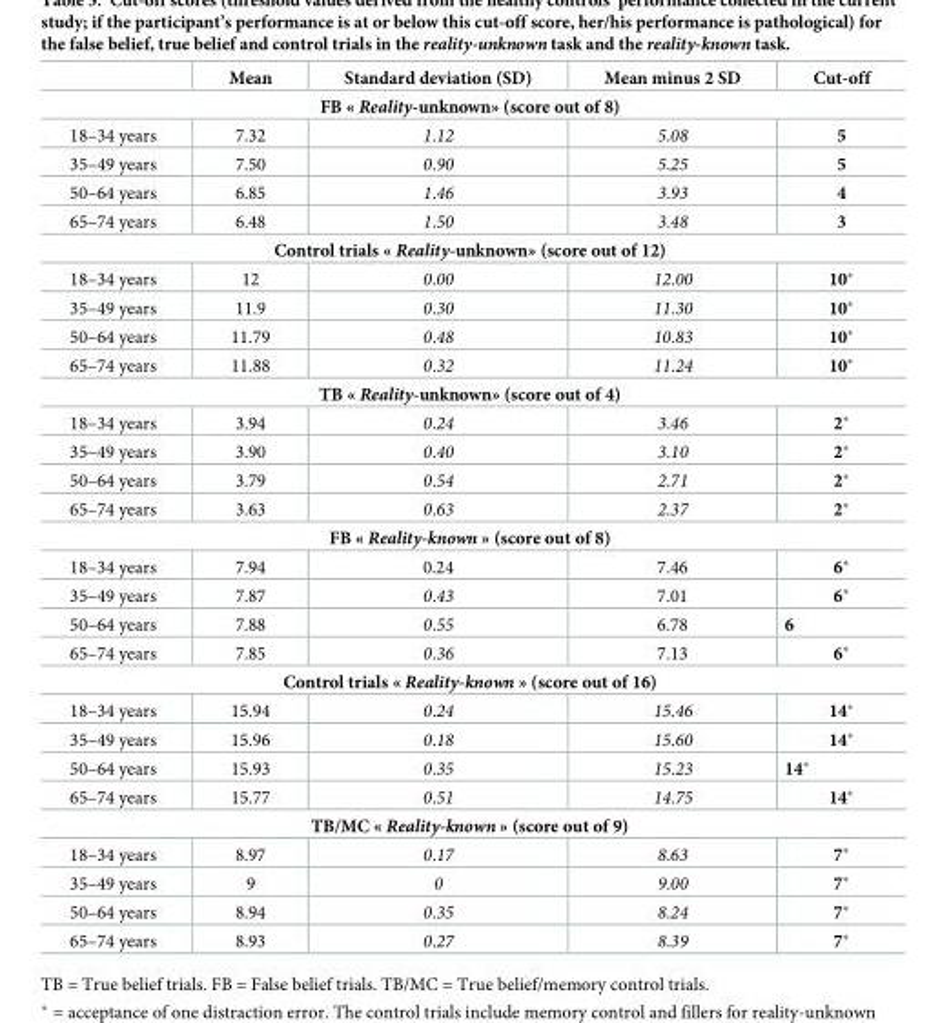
<table><thead><tr><td></td><td>Mean</td><td>Standard deviation (SD)</td><td>Mean minus 2 SD</td><td>Cut-off</td></tr></thead><tbody><tr><td colspan="5">FB « Reality-unknown» (score out of 8)</td></tr><tr><td>18–34 years</td><td>7.32</td><td>1.12</td><td>5.08</td><td>5</td></tr><tr><td>35–49 years</td><td>7.50</td><td>0.90</td><td>5.25</td><td>5</td></tr><tr><td>50–64 years</td><td>6.85</td><td>1.46</td><td>3.93</td><td>4</td></tr><tr><td>65–74 years</td><td>6.48</td><td>1.50</td><td>3.48</td><td>3</td></tr><tr><td colspan="5">Control trials « Reality-unknown» (score out of 12)</td></tr><tr><td>18–34 years</td><td>12</td><td>0.00</td><td>12.00</td><td>10*</td></tr><tr><td>35–49 years</td><td>11.9</td><td>0.30</td><td>11.30</td><td>10*</td></tr><tr><td>50–64 years</td><td>11.79</td><td>0.48</td><td>10.83</td><td>10*</td></tr><tr><td>65–74 years</td><td>11.88</td><td>0.32</td><td>11.24</td><td>10*</td></tr><tr><td colspan="5">TB « Reality-unknown» (score out of 4)</td></tr><tr><td>18–34 years</td><td>3.94</td><td>0.24</td><td>3.46</td><td>2*</td></tr><tr><td>35–49 years</td><td>3.90</td><td>0.40</td><td>3.10</td><td>2*</td></tr><tr><td>50–64 years</td><td>3.79</td><td>0.54</td><td>2.71</td><td>2*</td></tr><tr><td>65–74 years</td><td>3.63</td><td>0.63</td><td>2.37</td><td>2*</td></tr><tr><td colspan="5">FB « Reality-known » (score out of 8)</td></tr><tr><td>18–34 years</td><td>7.94</td><td>0.24</td><td>7.46</td><td>6*</td></tr><tr><td>35–49 years</td><td>7.87</td><td>0.43</td><td>7.01</td><td>6*</td></tr><tr><td>50–64 years</td><td>7.88</td><td>0.55</td><td>6.78</td><td>6</td></tr><tr><td>65–74 years</td><td>7.85</td><td>0.36</td><td>7.13</td><td>6*</td></tr><tr><td colspan="5">Control trials « Reality-known » (score out of 16)</td></tr><tr><td>18–34 years</td><td>15.94</td><td>0.24</td><td>15.46</td><td>14*</td></tr><tr><td>35–49 years</td><td>15.96</td><td>0.18</td><td>15.60</td><td>14*</td></tr><tr><td>50–64 years</td><td>15.93</td><td>0.35</td><td>15.23</td><td>14*</td></tr><tr><td>65–74 years</td><td>15.77</td><td>0.51</td><td>14.75</td><td>14*</td></tr><tr><td colspan="5">TB/MC « Reality-known » (score out of 9)</td></tr><tr><td>18–34 years</td><td>8.97</td><td>0.17</td><td>8.63</td><td>7*</td></tr><tr><td>35–49 years</td><td>9</td><td>0</td><td>9.00</td><td>7*</td></tr><tr><td>50–64 years</td><td>8.94</td><td>0.35</td><td>8.24</td><td>7*</td></tr><tr><td>65–74 years</td><td>8.93</td><td>0.27</td><td>8.39</td><td>7*</td></tr></tbody></table>